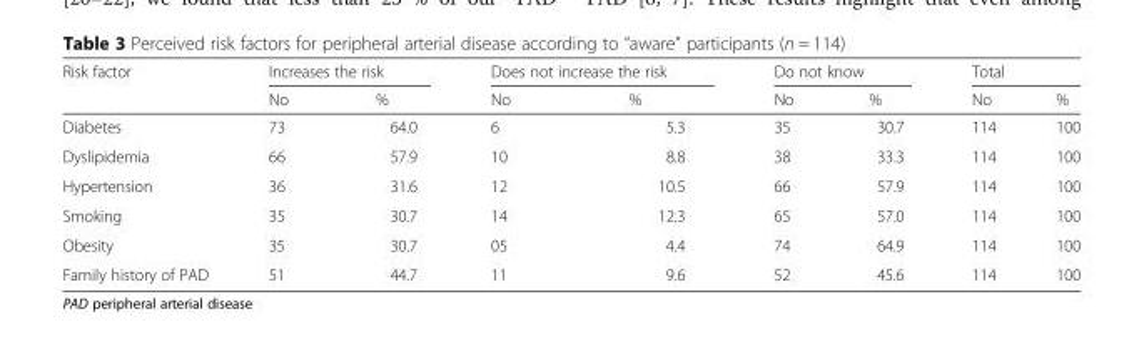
<table><thead><tr><td rowspan="2">Risk factor</td><td colspan="2">Increases the risk</td><td colspan="2">Does not increase the risk</td><td colspan="2">Do not know</td><td colspan="2">Total</td></tr><tr><td>No</td><td>%</td><td>No</td><td>%</td><td>No</td><td>%</td><td>No</td><td>%</td></tr></thead><tbody><tr><td>Diabetes</td><td>73</td><td>64.0</td><td>6</td><td>5.3</td><td>35</td><td>30.7</td><td>114</td><td>100</td></tr><tr><td>Dyslipidemia</td><td>66</td><td>57.9</td><td>10</td><td>8.8</td><td>38</td><td>33.3</td><td>114</td><td>100</td></tr><tr><td>Hypertension</td><td>36</td><td>31.6</td><td>12</td><td>10.5</td><td>66</td><td>57.9</td><td>114</td><td>100</td></tr><tr><td>Smoking</td><td>35</td><td>30.7</td><td>14</td><td>12.3</td><td>65</td><td>57.0</td><td>114</td><td>100</td></tr><tr><td>Obesity</td><td>35</td><td>30.7</td><td>05</td><td>4.4</td><td>74</td><td>64.9</td><td>114</td><td>100</td></tr><tr><td>Family history of PAD</td><td>51</td><td>44.7</td><td>11</td><td>9.6</td><td>52</td><td>45.6</td><td>114</td><td>100</td></tr></tbody></table>